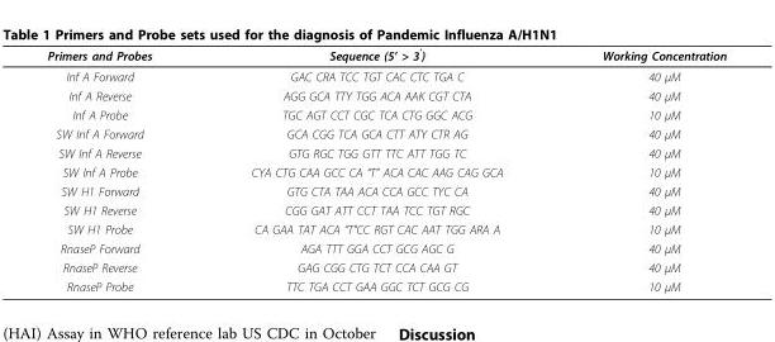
<table><thead><tr><td>Primers and Probes</td><td>Sequence (5’ &gt; 3<sup>’</sup>)</td><td>Working Concentration</td></tr></thead><tbody><tr><td>Inf A Forward</td><td>GAC CRA TCC TGT CAC CTC TGA C</td><td>40 μM</td></tr><tr><td>Inf A Reverse</td><td>AGG GCA TTY TGG ACA AAK CGT CTA</td><td>40 μM</td></tr><tr><td>Inf A Probe</td><td>TGC AGT CCT CGC TCA CTG GGC ACG</td><td>10 μM</td></tr><tr><td>SW Inf A Forward</td><td>GCA CGG TCA GCA CTT ATY CTR AG</td><td>40 μM</td></tr><tr><td>SW Inf A Reverse</td><td>GTG RGC TGG GTT TTC ATT TGG TC</td><td>40 μM</td></tr><tr><td>SW Inf A Probe</td><td>CYA CTG CAA GCC CA “T” ACA CAC AAG CAG GCA</td><td>10 μM</td></tr><tr><td>SW H1 Forward</td><td>GTG CTA TAA ACA CCA GCC TYC CA</td><td>40 μM</td></tr><tr><td>SW H1 Reverse</td><td>CGG GAT ATT CCT TAA TCC TGT RGC</td><td>40 μM</td></tr><tr><td>SW H1 Probe</td><td>CA GAA TAT ACA “T&quot;CC RGT CAC AAT TGG ARA A</td><td>10 μM</td></tr><tr><td>RnaseP Forward</td><td>AGA TTT GGA CCT GCG AGC G</td><td>40 μM</td></tr><tr><td>RnaseP Reverse</td><td>GAG CGG CTG TCT CCA CAA GT</td><td>40 μM</td></tr><tr><td>RnaseP Probe</td><td>TTC TGA CCT GAA GGC TCT GCG CG</td><td>10 μM</td></tr></tbody></table>